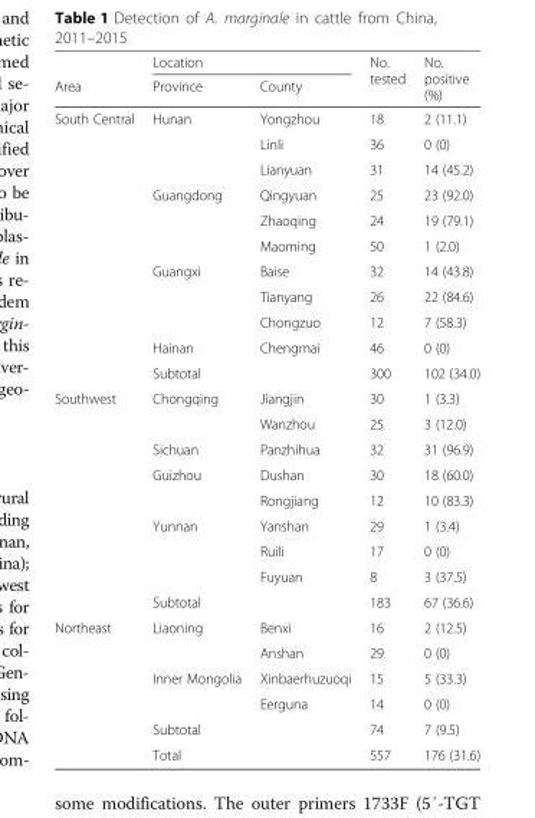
<table><thead><tr><td rowspan="2">Area</td><td colspan="2">Location</td><td rowspan="2">No. tested</td><td rowspan="2">No. positive (%)</td></tr><tr><td>Province</td><td>County</td></tr></thead><tbody><tr><td rowspan="11">South Central</td><td rowspan="3">Hunan</td><td>Yongzhou</td><td>18</td><td>2 (11.1)</td></tr><tr><td>Linli</td><td>36</td><td>0 (0)</td></tr><tr><td>Lianyuan</td><td>31</td><td>14 (45.2)</td></tr><tr><td rowspan="3">Guangdong</td><td>Qingyuan</td><td>25</td><td>23 (92.0)</td></tr><tr><td>Zhaoqing</td><td>24</td><td>19 (79.1)</td></tr><tr><td>Maoming</td><td>50</td><td>1 (2.0)</td></tr><tr><td rowspan="3">Guangxi</td><td>Baise</td><td>32</td><td>14 (43.8)</td></tr><tr><td>Tianyang</td><td>26</td><td>22 (84.6)</td></tr><tr><td>Chongzuo</td><td>12</td><td>7 (58.3)</td></tr><tr><td>Hainan</td><td>Chengmai</td><td>46</td><td>0 (0)</td></tr><tr><td>Subtotal</td><td></td><td>300</td><td>102 (34.0)</td></tr><tr><td rowspan="9">Southwest</td><td rowspan="2">Chongqing</td><td>Jiangjin</td><td>30</td><td>1 (3.3)</td></tr><tr><td>Wanzhou</td><td>25</td><td>3 (12.0)</td></tr><tr><td>Sichuan</td><td>Panzhihua</td><td>32</td><td>31 (96.9)</td></tr><tr><td rowspan="2">Guizhou</td><td>Dushan</td><td>30</td><td>18 (60.0)</td></tr><tr><td>Rongjiang</td><td>12</td><td>10 (83.3)</td></tr><tr><td rowspan="3">Yunnan</td><td>Yanshan</td><td>29</td><td>1 (3.4)</td></tr><tr><td>Ruili</td><td>17</td><td>0 (0)</td></tr><tr><td>Fuyuan</td><td>8</td><td>3 (37.5)</td></tr><tr><td>Subtotal</td><td></td><td>183</td><td>67 (36.6)</td></tr><tr><td rowspan="6">Northeast</td><td rowspan="2">Liaoning</td><td>Benxi</td><td>16</td><td>2 (12.5)</td></tr><tr><td>Anshan</td><td>29</td><td>0 (0)</td></tr><tr><td rowspan="2">Inner Mongolia</td><td>Xinbaerhuzuoqi</td><td>15</td><td>5 (33.3)</td></tr><tr><td>Eerguna</td><td>14</td><td>0 (0)</td></tr><tr><td>Subtotal</td><td></td><td>74</td><td>7 (9.5)</td></tr><tr><td>Total</td><td></td><td>557</td><td>176 (31.6)</td></tr></tbody></table>